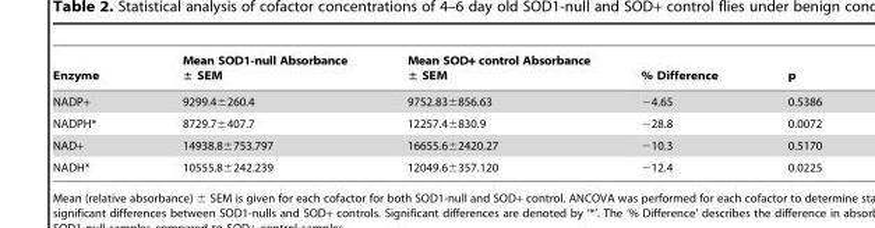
<table><thead><tr><td>Enzyme</td><td>Mean SOD1-null Absorbance ± SEM</td><td>Mean SOD+ control Absorbance ± SEM</td><td>% Difference</td><td>p</td></tr></thead><tbody><tr><td>NADP+</td><td>9299.4±260.4</td><td>9752.83±856.63</td><td>−4.65</td><td>0.5386</td></tr><tr><td>NADPH*</td><td>8729.7±407.7</td><td>12257.4±830.9</td><td>−28.8</td><td>0.0072</td></tr><tr><td>NAD+</td><td>14938.8±753.797</td><td>16655.6±2420.27</td><td>−10.3</td><td>0.5170</td></tr><tr><td>NADH*</td><td>10555.8±242.239</td><td>12049.6±357.120</td><td>−12.4</td><td>0.0225</td></tr></tbody></table>